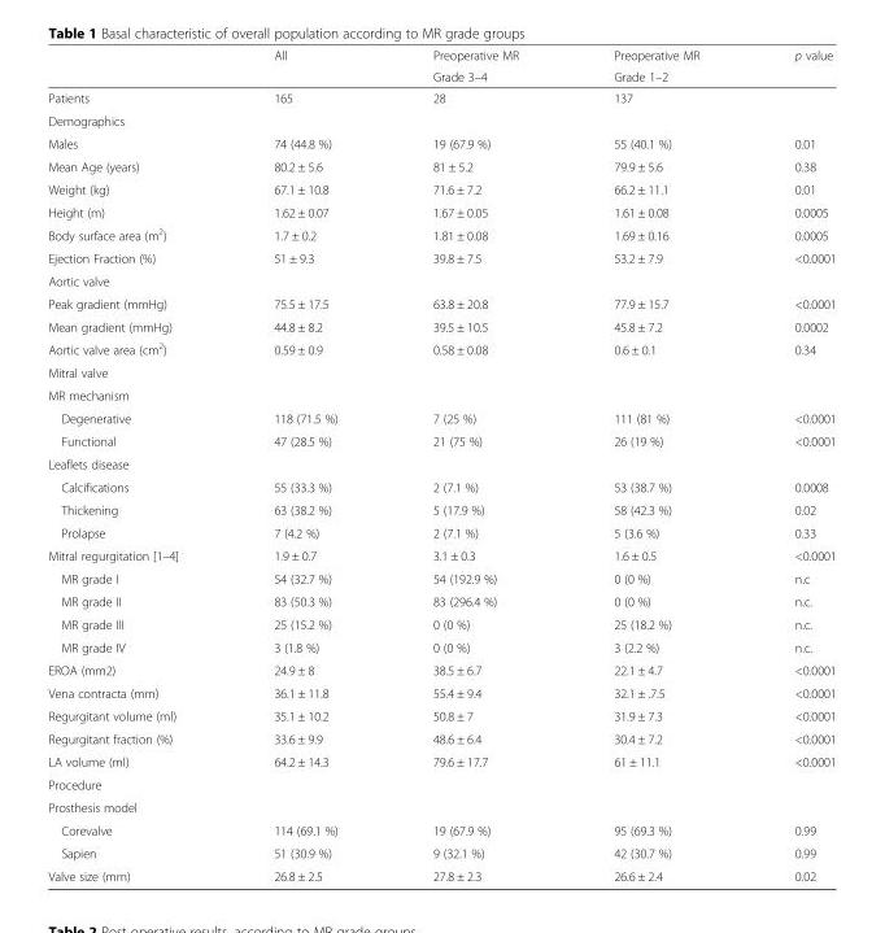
<table><thead><tr><td rowspan="2"></td><td rowspan="2">All</td><td rowspan="2">Preoperative MR Grade 3–4</td><td rowspan="2">Preoperative MR Grade 1–2</td><td rowspan="2">p value</td></tr><tr></tr></thead><tbody><tr><td>Patients</td><td>165</td><td>28</td><td>137</td><td></td></tr><tr><td colspan="5">Demographics</td></tr><tr><td>Males</td><td>74 (44.8 %)</td><td>19 (67.9 %)</td><td>55 (40.1 %)</td><td>0.01</td></tr><tr><td>Mean Age (years)</td><td>80.2 ± 5.6</td><td>81 ± 5.2</td><td>79.9 ± 5.6</td><td>0.38</td></tr><tr><td>Weight (kg)</td><td>67.1 ± 10.8</td><td>71.6 ± 7.2</td><td>66.2 ± 11.1</td><td>0.01</td></tr><tr><td>Height (m)</td><td>1.62 ± 0.07</td><td>1.67 ± 0.05</td><td>1.61 ± 0.08</td><td>0.0005</td></tr><tr><td>Body surface area (m<sup>2</sup>)</td><td>1.7 ± 0.2</td><td>1.81 ± 0.08</td><td>1.69 ± 0.16</td><td>0.0005</td></tr><tr><td>Ejection Fraction (%)</td><td>51 ± 9.3</td><td>39.8 ± 7.5</td><td>53.2 ± 7.9</td><td>&lt;0.0001</td></tr><tr><td colspan="5">Aortic valve</td></tr><tr><td>Peak gradient (mmHg)</td><td>75.5 ± 17.5</td><td>63.8 ± 20.8</td><td>77.9 ± 15.7</td><td>&lt;0.0001</td></tr><tr><td>Mean gradient (mmHg)</td><td>44.8 ± 8.2</td><td>39.5 ± 10.5</td><td>45.8 ± 7.2</td><td>0.0002</td></tr><tr><td>Aortic valve area (cm<sup>2</sup>)</td><td>0.59 ± 0.9</td><td>0.58 ± 0.08</td><td>0.6 ± 0.1</td><td>0.34</td></tr><tr><td colspan="5">Mitral valve</td></tr><tr><td colspan="5">MR mechanism</td></tr><tr><td>Degenerative</td><td>118 (71.5 %)</td><td>7 (25 %)</td><td>111 (81 %)</td><td>&lt;0.0001</td></tr><tr><td>Functional</td><td>47 (28.5 %)</td><td>21 (75 %)</td><td>26 (19 %)</td><td>&lt;0.0001</td></tr><tr><td colspan="5">Leaflets disease</td></tr><tr><td>Calcifications</td><td>55 (33.3 %)</td><td>2 (7.1 %)</td><td>53 (38.7 %)</td><td>0.0008</td></tr><tr><td>Thickening</td><td>63 (38.2 %)</td><td>5 (17.9 %)</td><td>58 (42.3 %)</td><td>0.02</td></tr><tr><td>Prolapse</td><td>7 (4.2 %)</td><td>2 (7.1 %)</td><td>5 (3.6 %)</td><td>0.33</td></tr><tr><td>Mitral regurgitation [1–4]</td><td>1.9 ± 0.7</td><td>3.1 ± 0.3</td><td>1.6 ± 0.5</td><td>&lt;0.0001</td></tr><tr><td>MR grade I</td><td>54 (32.7 %)</td><td>54 (192.9 %)</td><td>0 (0 %)</td><td>n.c</td></tr><tr><td>MR grade II</td><td>83 (50.3 %)</td><td>83 (296.4 %)</td><td>0 (0 %)</td><td>n.c.</td></tr><tr><td>MR grade III</td><td>25 (15.2 %)</td><td>0 (0 %)</td><td>25 (18.2 %)</td><td>n.c.</td></tr><tr><td>MR grade IV</td><td>3 (1.8 %)</td><td>0 (0 %)</td><td>3 (2.2 %)</td><td>n.c.</td></tr><tr><td>EROA (mm2)</td><td>24.9 ± 8</td><td>38.5 ± 6.7</td><td>22.1 ± 4.7</td><td>&lt;0.0001</td></tr><tr><td>Vena contracta (mm)</td><td>36.1 ± 11.8</td><td>55.4 ± 9.4</td><td>32.1 ± .7.5</td><td>&lt;0.0001</td></tr><tr><td>Regurgitant volume (ml)</td><td>35.1 ± 10.2</td><td>50.8 ± 7</td><td>31.9 ± 7.3</td><td>&lt;0.0001</td></tr><tr><td>Regurgitant fraction (%)</td><td>33.6 ± 9.9</td><td>48.6 ± 6.4</td><td>30.4 ± 7.2</td><td>&lt;0.0001</td></tr><tr><td>LA volume (ml)</td><td>64.2 ± 14.3</td><td>79.6 ± 17.7</td><td>61 ± 11.1</td><td>&lt;0.0001</td></tr><tr><td colspan="5">Procedure</td></tr><tr><td colspan="5">Prosthesis model</td></tr><tr><td>Corevalve</td><td>114 (69.1 %)</td><td>19 (67.9 %)</td><td>95 (69.3 %)</td><td>0.99</td></tr><tr><td>Sapien</td><td>51 (30.9 %)</td><td>9 (32.1 %)</td><td>42 (30.7 %)</td><td>0.99</td></tr><tr><td>Valve size (mm)</td><td>26.8 ± 2.5</td><td>27.8 ± 2.3</td><td>26.6 ± 2.4</td><td>0.02</td></tr></tbody></table>